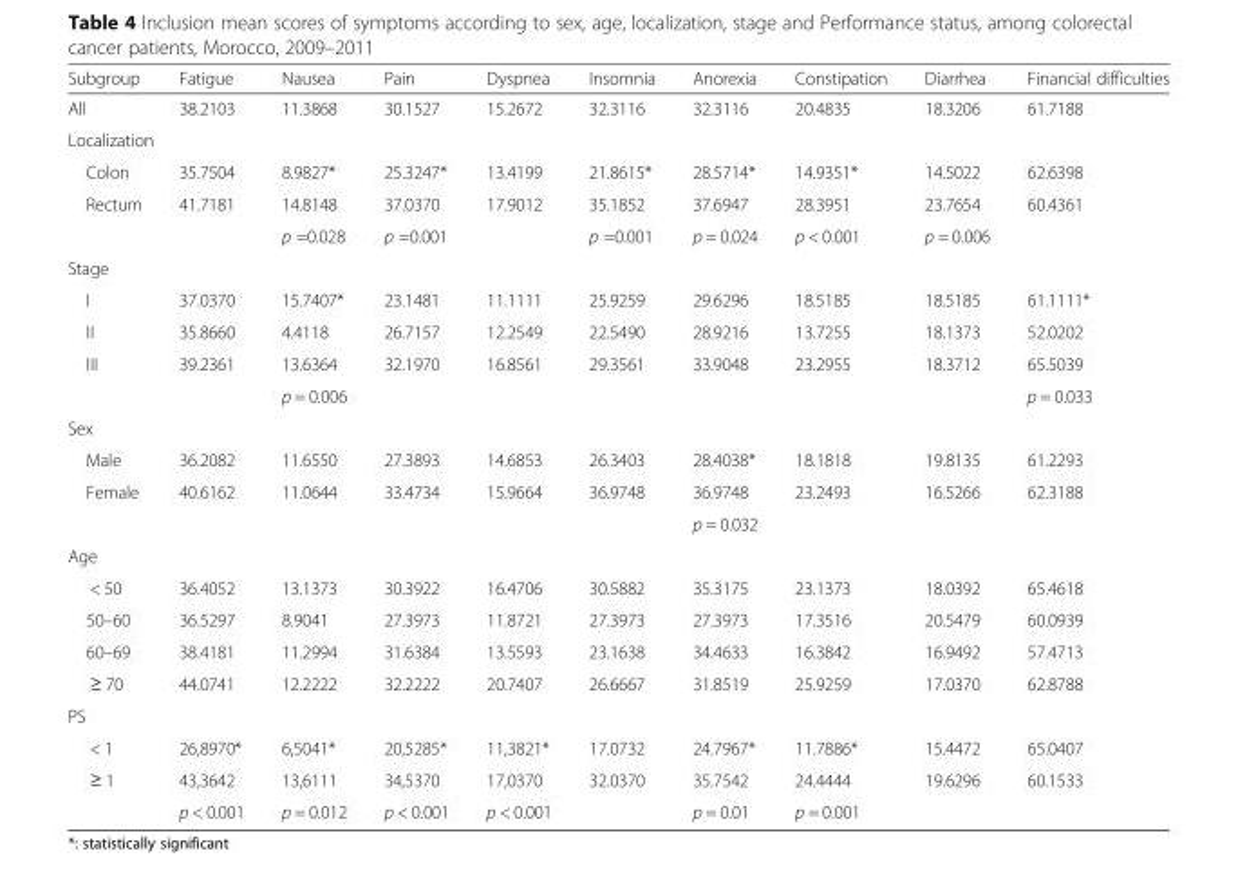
<table><thead><tr><td>Subgroup</td><td>Fatigue</td><td>Nausea</td><td>Pain</td><td>Dyspnea</td><td>Insomnia</td><td>Anorexia</td><td>Constipation</td><td>Diarrhea</td><td>Financial difficulties</td></tr></thead><tbody><tr><td>All</td><td>38.2103</td><td>11.3868</td><td>30.1527</td><td>15.2672</td><td>32.3116</td><td>32.3116</td><td>20.4835</td><td>18.3206</td><td>61.7188</td></tr><tr><td colspan="10">Localization</td></tr><tr><td>Colon</td><td>35.7504</td><td>8.9827*</td><td>25.3247*</td><td>13.4199</td><td>21.8615*</td><td>28.5714*</td><td>14.9351*</td><td>14.5022</td><td>62.6398</td></tr><tr><td rowspan="2">Rectum</td><td>41.7181</td><td>14.8148</td><td>37.0370</td><td>17.9012</td><td>35.1852</td><td>37.6947</td><td>28.3951</td><td>23.7654</td><td>60.4361</td></tr><tr><td></td><td>p =0.028</td><td>p =0.001</td><td></td><td>p =0.001</td><td>p = 0.024</td><td>p &lt; 0.001</td><td>p = 0.006</td><td></td></tr><tr><td colspan="10">Stage</td></tr><tr><td>I</td><td>37.0370</td><td>15.7407*</td><td>23.1481</td><td>11.1111</td><td>25.9259</td><td>29.6296</td><td>18.5185</td><td>18.5185</td><td>61.1111*</td></tr><tr><td>II</td><td>35.8660</td><td>4.4118</td><td>26.7157</td><td>12.2549</td><td>22.5490</td><td>28.9216</td><td>13.7255</td><td>18.1373</td><td>52.0202</td></tr><tr><td rowspan="2">III</td><td>39.2361</td><td>13.6364</td><td>32.1970</td><td>16.8561</td><td>29.3561</td><td>33.9048</td><td>23.2955</td><td>18.3712</td><td>65.5039</td></tr><tr><td></td><td>p = 0.006</td><td></td><td></td><td></td><td></td><td></td><td></td><td>p = 0.033</td></tr><tr><td colspan="10">Sex</td></tr><tr><td>Male</td><td>36.2082</td><td>11.6550</td><td>27.3893</td><td>14.6853</td><td>26.3403</td><td>28.4038*</td><td>18.1818</td><td>19.8135</td><td>61.2293</td></tr><tr><td rowspan="2">Female</td><td>40.6162</td><td>11.0644</td><td>33.4734</td><td>15.9664</td><td>36.9748</td><td>36.9748</td><td>23.2493</td><td>16.5266</td><td>62.3188</td></tr><tr><td></td><td></td><td></td><td></td><td></td><td>p = 0.032</td><td></td><td></td><td></td></tr><tr><td colspan="10">Age</td></tr><tr><td>&lt; 50</td><td>36.4052</td><td>13.1373</td><td>30.3922</td><td>16.4706</td><td>30.5882</td><td>35.3175</td><td>23.1373</td><td>18.0392</td><td>65.4618</td></tr><tr><td>50–60</td><td>36.5297</td><td>8.9041</td><td>27.3973</td><td>11.8721</td><td>27.3973</td><td>27.3973</td><td>17.3516</td><td>20.5479</td><td>60.0939</td></tr><tr><td>60–69</td><td>38.4181</td><td>11.2994</td><td>31.6384</td><td>13.5593</td><td>23.1638</td><td>34.4633</td><td>16.3842</td><td>16.9492</td><td>57.4713</td></tr><tr><td>≥ 70</td><td>44.0741</td><td>12.2222</td><td>32.2222</td><td>20.7407</td><td>26.6667</td><td>31.8519</td><td>25.9259</td><td>17.0370</td><td>62.8788</td></tr><tr><td colspan="10">PS</td></tr><tr><td>&lt; 1</td><td>26,8970*</td><td>6,5041*</td><td>20,5285*</td><td>11,3821*</td><td>17.0732</td><td>24.7967*</td><td>11.7886*</td><td>15.4472</td><td>65.0407</td></tr><tr><td rowspan="2">≥ 1</td><td>43,3642</td><td>13,6111</td><td>34,5370</td><td>17,0370</td><td>32.0370</td><td>35.7542</td><td>24.4444</td><td>19.6296</td><td>60.1533</td></tr><tr><td>p &lt; 0.001</td><td>p = 0.012</td><td>p &lt; 0.001</td><td>p &lt; 0.001</td><td></td><td>p = 0.01</td><td>p = 0.001</td><td></td><td></td></tr></tbody></table>